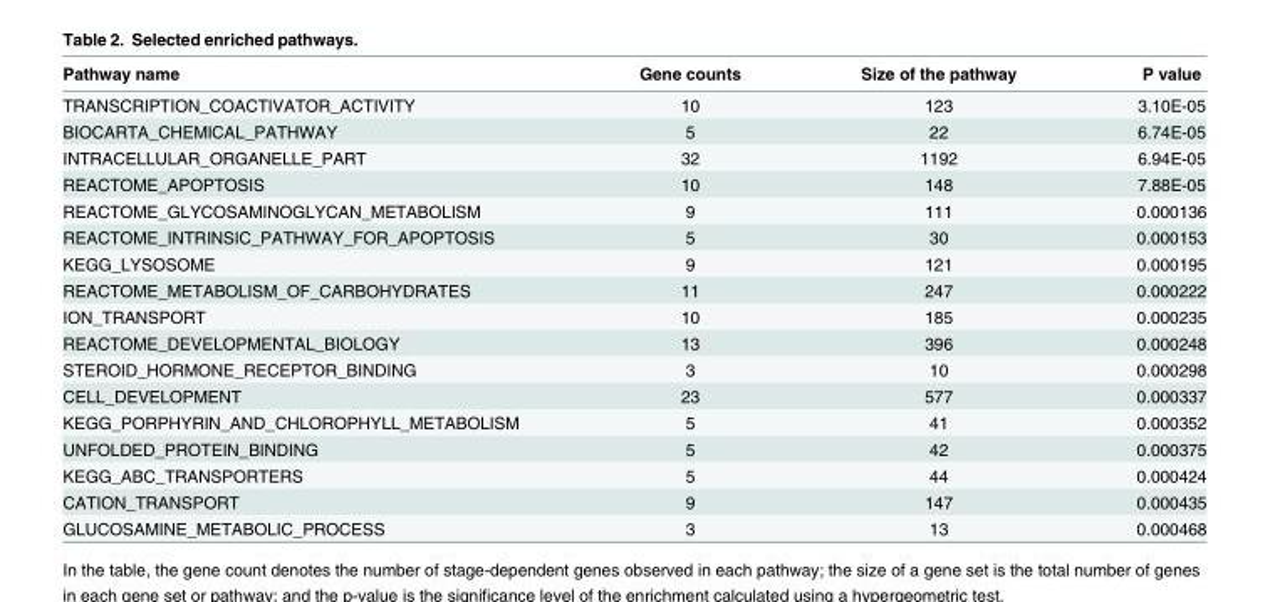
<table><thead><tr><td>Pathway name</td><td>Gene counts</td><td>Size of the pathway</td><td>P value</td></tr></thead><tbody><tr><td>TRANSCRIPTION_COACTIVATOR_ACTIVITY</td><td>10</td><td>123</td><td>3.10E-05</td></tr><tr><td>BIOCARTA_CHEMICAL_PATHWAY</td><td>5</td><td>22</td><td>6.74E-05</td></tr><tr><td>INTRACELLULAR_ORGANELLE_PART</td><td>32</td><td>1192</td><td>6.94E-05</td></tr><tr><td>REACTOME_APOPTOSIS</td><td>10</td><td>148</td><td>7.88E-05</td></tr><tr><td>REACTOME_GLYCOSAMINOGLYCAN_METABOLISM</td><td>9</td><td>111</td><td>0.000136</td></tr><tr><td>REACTOME_INTRINSIC_PATHWAY_FOR_APOPTOSIS</td><td>5</td><td>30</td><td>0.000153</td></tr><tr><td>KEGG_LYSOSOME</td><td>9</td><td>121</td><td>0.000195</td></tr><tr><td>REACTOME_METABOLISM_OF_CARBOHYDRATES</td><td>11</td><td>247</td><td>0.000222</td></tr><tr><td>ION_TRANSPORT</td><td>10</td><td>185</td><td>0.000235</td></tr><tr><td>REACTOME_DEVELOPMENTAL_BIOLOGY</td><td>13</td><td>396</td><td>0.000248</td></tr><tr><td>STEROID_HORMONE_RECEPTOR_BINDING</td><td>3</td><td>10</td><td>0.000298</td></tr><tr><td>CELL_DEVELOPMENT</td><td>23</td><td>577</td><td>0.000337</td></tr><tr><td>KEGG_PORPHYRIN_AND_CHLOROPHYLL_METABOLISM</td><td>5</td><td>41</td><td>0.000352</td></tr><tr><td>UNFOLDED_PROTEIN_BINDING</td><td>5</td><td>42</td><td>0.000375</td></tr><tr><td>KEGG_ABC_TRANSPORTERS</td><td>5</td><td>44</td><td>0.000424</td></tr><tr><td>CATION_TRANSPORT</td><td>9</td><td>147</td><td>0.000435</td></tr><tr><td>GLUCOSAMINE_METABOLIC_PROCESS</td><td>3</td><td>13</td><td>0.000468</td></tr></tbody></table>